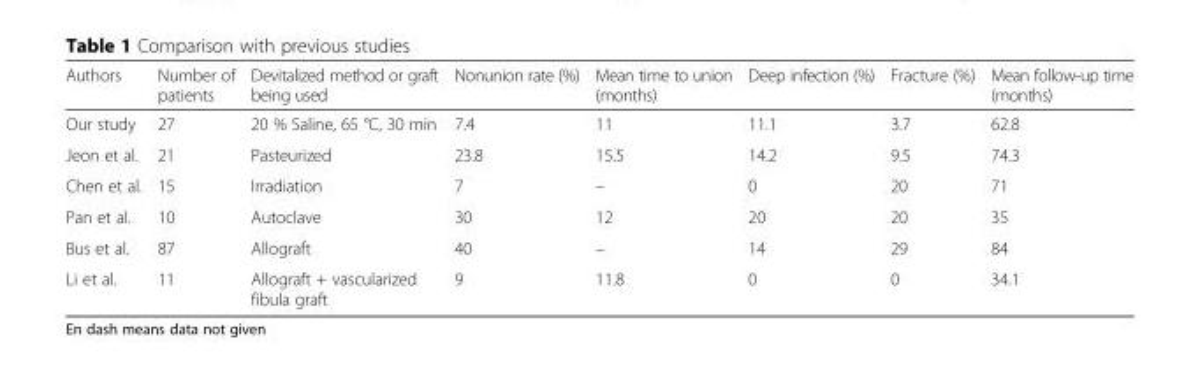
<table><thead><tr><td>Authors</td><td>Number of patients</td><td>Devitalized method or graft being used</td><td>Nonunion rate (%)</td><td>Mean time to union (months)</td><td>Deep infection (%)</td><td>Fracture (%)</td><td>Mean follow-up time (months)</td></tr></thead><tbody><tr><td>Our study</td><td>27</td><td>20 % Saline, 65 °C, 30 min</td><td>7.4</td><td>11</td><td>11.1</td><td>3.7</td><td>62.8</td></tr><tr><td>Jeon et al.</td><td>21</td><td>Pasteurized</td><td>23.8</td><td>15.5</td><td>14.2</td><td>9.5</td><td>74.3</td></tr><tr><td>Chen et al.</td><td>15</td><td>Irradiation</td><td>7</td><td>–</td><td>0</td><td>20</td><td>71</td></tr><tr><td>Pan et al.</td><td>10</td><td>Autoclave</td><td>30</td><td>12</td><td>20</td><td>20</td><td>35</td></tr><tr><td>Bus et al.</td><td>87</td><td>Allograft</td><td>40</td><td>–</td><td>14</td><td>29</td><td>84</td></tr><tr><td>Li et al.</td><td>11</td><td>Allograft + vascularized fibula graft</td><td>9</td><td>11.8</td><td>0</td><td>0</td><td>34.1</td></tr></tbody></table>